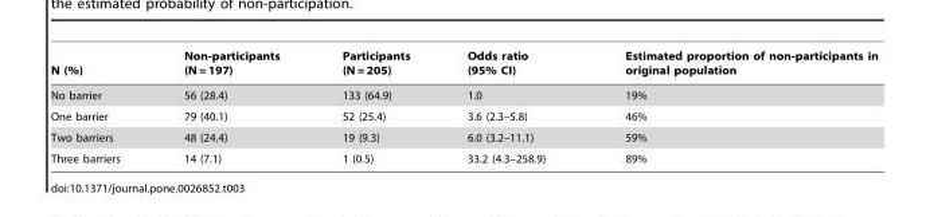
<table><thead><tr><td>N (%)</td><td>Non-participants (N = 197)</td><td>Participants (N = 205)</td><td>Odds ratio (95% CI)</td><td>Estimated proportion of non-participants in original population</td></tr></thead><tbody><tr><td>No barrier</td><td>56 (28.4)</td><td>133 (64.9)</td><td>1.0</td><td>19%</td></tr><tr><td>One barrier</td><td>79 (40.1)</td><td>52 (25.4)</td><td>3.6 (2.3–5.8)</td><td>46%</td></tr><tr><td>Two barriers</td><td>48 (24.4)</td><td>19 (9.3)</td><td>6.0 (3.2–11.1)</td><td>59%</td></tr><tr><td>Three barriers</td><td>14 (7.1)</td><td>1 (0.5)</td><td>33.2 (4.3–258.9)</td><td>89%</td></tr></tbody></table>